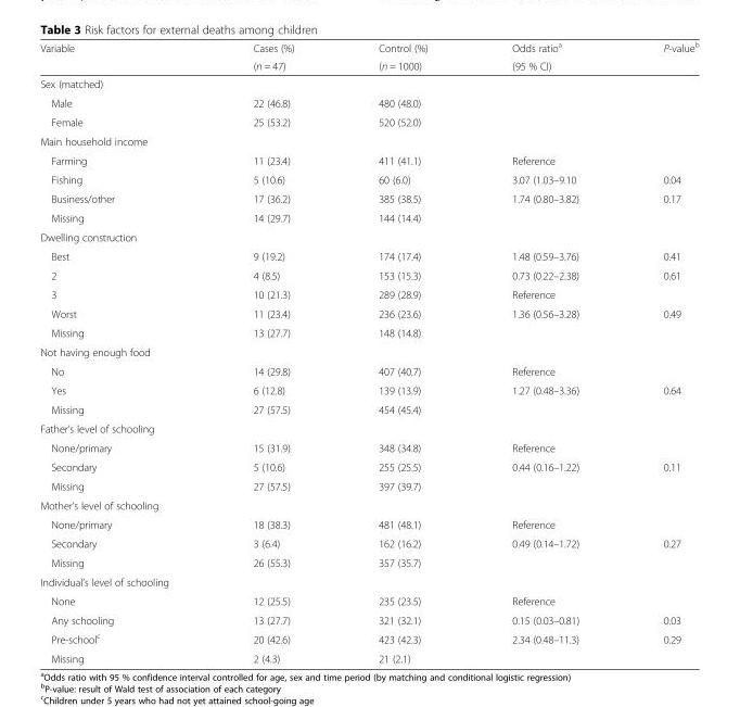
<table><thead><tr><td rowspan="2">Variable</td><td rowspan="2">Cases (%) (n = 47)</td><td rowspan="2">Control (%) (n = 1000)</td><td rowspan="2">Odds ratio<sup>a</sup> (95 % CI)</td><td rowspan="2">P-value<sup>b</sup></td></tr><tr></tr></thead><tbody><tr><td colspan="5">Sex (matched)</td></tr><tr><td>Male</td><td>22 (46.8)</td><td>480 (48.0)</td><td></td><td></td></tr><tr><td>Female</td><td>25 (53.2)</td><td>520 (52.0)</td><td></td><td></td></tr><tr><td colspan="5">Main household income</td></tr><tr><td>Farming</td><td>11 (23.4)</td><td>411 (41.1)</td><td>Reference</td><td></td></tr><tr><td>Fishing</td><td>5 (10.6)</td><td>60 (6.0)</td><td>3.07 (1.03–9.10</td><td>0.04</td></tr><tr><td>Business/other</td><td>17 (36.2)</td><td>385 (38.5)</td><td>1.74 (0.80–3.82)</td><td>0.17</td></tr><tr><td>Missing</td><td>14 (29.7)</td><td>144 (14.4)</td><td></td><td></td></tr><tr><td colspan="5">Dwelling construction</td></tr><tr><td>Best</td><td>9 (19.2)</td><td>174 (17.4)</td><td>1.48 (0.59–3.76)</td><td>0.41</td></tr><tr><td>2</td><td>4 (8.5)</td><td>153 (15.3)</td><td>0.73 (0.22–2.38)</td><td>0.61</td></tr><tr><td>3</td><td>10 (21.3)</td><td>289 (28.9)</td><td>Reference</td><td></td></tr><tr><td>Worst</td><td>11 (23.4)</td><td>236 (23.6)</td><td>1.36 (0.56–3.28)</td><td>0.49</td></tr><tr><td>Missing</td><td>13 (27.7)</td><td>148 (14.8)</td><td></td><td></td></tr><tr><td colspan="5">Not having enough food</td></tr><tr><td>No</td><td>14 (29.8)</td><td>407 (40.7)</td><td>Reference</td><td></td></tr><tr><td>Yes</td><td>6 (12.8)</td><td>139 (13.9)</td><td>1.27 (0.48–3.36)</td><td>0.64</td></tr><tr><td>Missing</td><td>27 (57.5)</td><td>454 (45.4)</td><td></td><td></td></tr><tr><td colspan="5">Father’s level of schooling</td></tr><tr><td>None/primary</td><td>15 (31.9)</td><td>348 (34.8)</td><td>Reference</td><td></td></tr><tr><td>Secondary</td><td>5 (10.6)</td><td>255 (25.5)</td><td>0.44 (0.16–1.22)</td><td>0.11</td></tr><tr><td>Missing</td><td>27 (57.5)</td><td>397 (39.7)</td><td></td><td></td></tr><tr><td colspan="5">Mother’s level of schooling</td></tr><tr><td>None/primary</td><td>18 (38.3)</td><td>481 (48.1)</td><td>Reference</td><td></td></tr><tr><td>Secondary</td><td>3 (6.4)</td><td>162 (16.2)</td><td>0.49 (0.14–1.72)</td><td>0.27</td></tr><tr><td>Missing</td><td>26 (55.3)</td><td>357 (35.7)</td><td></td><td></td></tr><tr><td colspan="5">Individual’s level of schooling</td></tr><tr><td>None</td><td>12 (25.5)</td><td>235 (23.5)</td><td>Reference</td><td></td></tr><tr><td>Any schooling</td><td>13 (27.7)</td><td>321 (32.1)</td><td>0.15 (0.03–0.81)</td><td>0.03</td></tr><tr><td>Pre-school<sup>c</sup></td><td>20 (42.6)</td><td>423 (42.3)</td><td>2.34 (0.48–11.3)</td><td>0.29</td></tr><tr><td>Missing</td><td>2 (4.3)</td><td>21 (2.1)</td><td></td><td></td></tr></tbody></table>